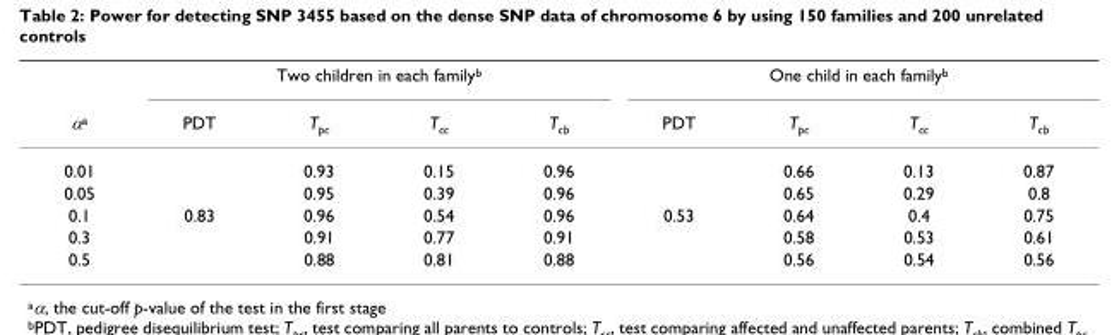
<table><thead><tr><td rowspan="2">α<sup>a</sup></td><td colspan="4">Two children in each family<sup>b</sup></td><td colspan="4">One child in each family<sup>b</sup></td></tr><tr><td>PDT</td><td>T<sub>pc</sub></td><td>T<sub>cc</sub></td><td>T<sub>cb</sub></td><td>PDT</td><td>T<sub>pc</sub></td><td>T<sub>cc</sub></td><td>T<sub>cb</sub></td></tr></thead><tbody><tr><td>0.01</td><td></td><td>0.93</td><td>0.15</td><td>0.96</td><td></td><td>0.66</td><td>0.13</td><td>0.87</td></tr><tr><td>0.05</td><td></td><td>0.95</td><td>0.39</td><td>0.96</td><td></td><td>0.65</td><td>0.29</td><td>0.8</td></tr><tr><td>0.1</td><td>0.83</td><td>0.96</td><td>0.54</td><td>0.96</td><td>0.53</td><td>0.64</td><td>0.4</td><td>0.75</td></tr><tr><td>0.3</td><td></td><td>0.91</td><td>0.77</td><td>0.91</td><td></td><td>0.58</td><td>0.53</td><td>0.61</td></tr><tr><td>0.5</td><td></td><td>0.88</td><td>0.81</td><td>0.88</td><td></td><td>0.56</td><td>0.54</td><td>0.56</td></tr></tbody></table>